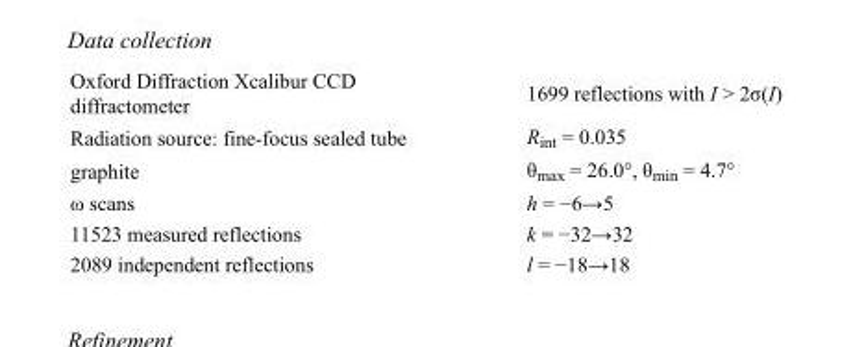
<table><tbody><tr><td>Oxford Diffraction Xcalibur CCD diffractometer</td><td>1699 reflections with I &gt; 2σ(I)</td></tr><tr><td>Radiation source: fine-focus sealed tube</td><td>R<sub>int</sub> = 0.035</td></tr><tr><td>graphite</td><td>θ<sub>max</sub> = 26.0°, θ<sub>min</sub> = 4.7°</td></tr><tr><td>ω scans</td><td>h = −6→5</td></tr><tr><td>11523 measured reflections</td><td>k = −32→32</td></tr><tr><td>2089 independent reflections</td><td>l = −18→18</td></tr></tbody></table>